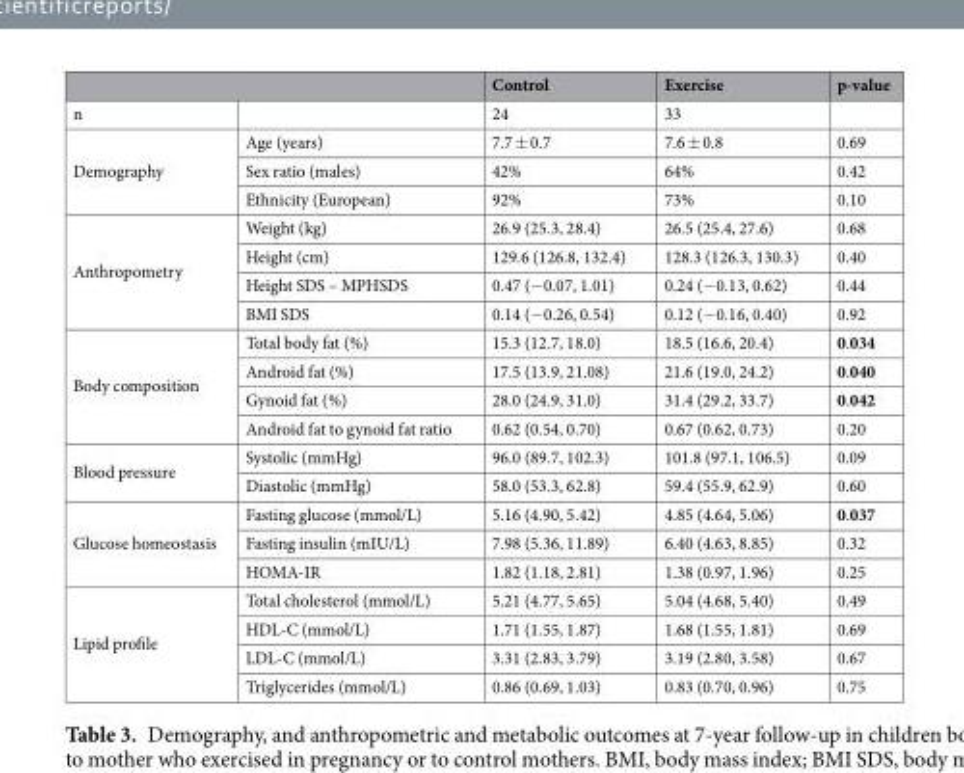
<table><thead><tr><td></td><td></td><td>Control</td><td>Exercise</td><td>p-value</td></tr></thead><tbody><tr><td>n</td><td></td><td>24</td><td>33</td><td></td></tr><tr><td rowspan="3">Demography</td><td>Age (years)</td><td>7.7 ± 0.7</td><td>7.6 ± 0.8</td><td>0.69</td></tr><tr><td>Sex ratio (males)</td><td>42%</td><td>64%</td><td>0.42</td></tr><tr><td>Ethnicity (European)</td><td>92%</td><td>73%</td><td>0.10</td></tr><tr><td rowspan="4">Anthropometry</td><td>Weight (kg)</td><td>26.9 (25.3, 28.4)</td><td>26.5 (25.4, 27.6)</td><td>0.68</td></tr><tr><td>Height (cm)</td><td>129.6 (126.8, 132.4)</td><td>128.3 (126.3, 130.3)</td><td>0.40</td></tr><tr><td>Height SDS – MPHSDS</td><td>0.47 (−0.07, 1.01)</td><td>0.24 (−0.13, 0.62)</td><td>0.44</td></tr><tr><td>BMI SDS</td><td>0.14 (−0.26, 0.54)</td><td>0.12 (−0.16, 0.40)</td><td>0.92</td></tr><tr><td rowspan="4">Body composition</td><td>Total body fat (%)</td><td>15.3 (12.7, 18.0)</td><td>18.5 (16.6, 20.4)</td><td>0.034</td></tr><tr><td>Android fat (%)</td><td>17.5 (13.9, 21.08)</td><td>21.6 (19.0, 24.2)</td><td>0.040</td></tr><tr><td>Gynoid fat (%)</td><td>28.0 (24.9, 31.0)</td><td>31.4 (29.2, 33.7)</td><td>0.042</td></tr><tr><td>Android fat to gynoid fat ratio</td><td>0.62 (0.54, 0.70)</td><td>0.67 (0.62, 0.73)</td><td>0.20</td></tr><tr><td rowspan="2">Blood pressure</td><td>Systolic (mmHg)</td><td>96.0 (89.7, 102.3)</td><td>101.8 (97.1, 106.5)</td><td>0.09</td></tr><tr><td>Diastolic (mmHg)</td><td>58.0 (53.3, 62.8)</td><td>59.4 (55.9, 62.9)</td><td>0.60</td></tr><tr><td rowspan="3">Glucose homeostasis</td><td>Fasting glucose (mmol/L)</td><td>5.16 (4.90, 5.42)</td><td>4.85 (4.64, 5.06)</td><td>0.037</td></tr><tr><td>Fasting insulin (mIU/L)</td><td>7.98 (5.36, 11.89)</td><td>6.40 (4.63, 8.85)</td><td>0.32</td></tr><tr><td>HOMA-IR</td><td>1.82 (1.18, 2.81)</td><td>1.38 (0.97, 1.96)</td><td>0.25</td></tr><tr><td rowspan="4">Lipid profile</td><td>Total cholesterol (mmol/L)</td><td>5.21 (4.77, 5.65)</td><td>5.04 (4.68, 5.40)</td><td>0.49</td></tr><tr><td>HDL-C (mmol/L)</td><td>1.71 (1.55, 1.87)</td><td>1.68 (1.55, 1.81)</td><td>0.69</td></tr><tr><td>LDL-C (mmol/L)</td><td>3.31 (2.83, 3.79)</td><td>3.19 (2.80, 3.58)</td><td>0.67</td></tr><tr><td>Triglycerides (mmol/L)</td><td>0.86 (0.69, 1.03)</td><td>0.83 (0.70, 0.96)</td><td>0.75</td></tr></tbody></table>